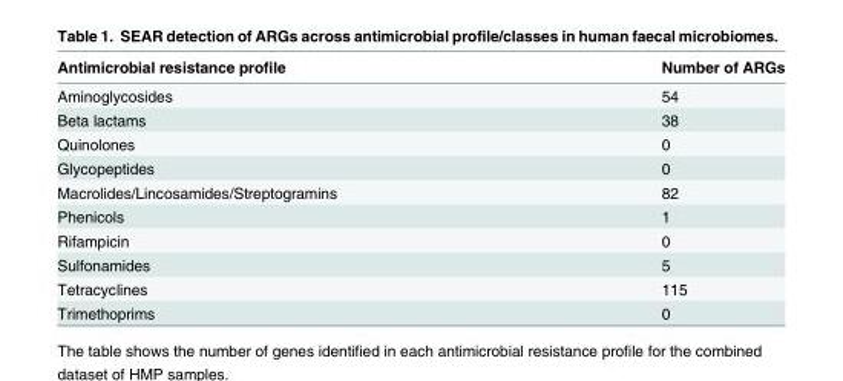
<table><thead><tr><td>Antimicrobial resistance profile</td><td>Number of ARGs</td></tr></thead><tbody><tr><td>Aminoglycosides</td><td>54</td></tr><tr><td>Beta lactams</td><td>38</td></tr><tr><td>Quinolones</td><td>0</td></tr><tr><td>Glycopeptides</td><td>0</td></tr><tr><td>Macrolides/Lincosamides/Streptogramins</td><td>82</td></tr><tr><td>Phenicols</td><td>1</td></tr><tr><td>Rifampicin</td><td>0</td></tr><tr><td>Sulfonamides</td><td>5</td></tr><tr><td>Tetracyclines</td><td>115</td></tr><tr><td>Trimethoprims</td><td>0</td></tr></tbody></table>